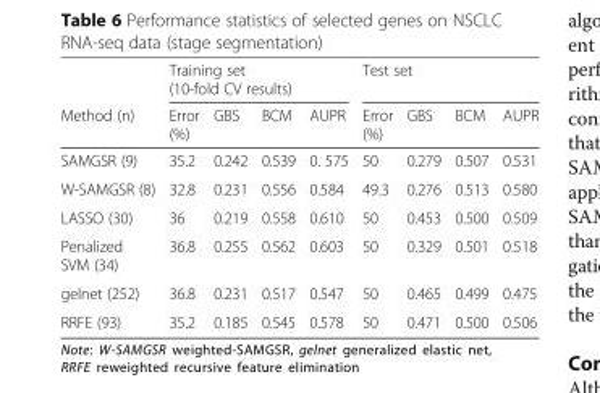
<table><thead><tr><td rowspan="2">Method (n)</td><td colspan="4">Training set (10-fold CV results)</td><td colspan="4">Test set</td></tr><tr><td>Error (%)</td><td>GBS</td><td>BCM</td><td>AUPR</td><td>Error (%)</td><td>GBS</td><td>BCM</td><td>AUPR</td></tr></thead><tbody><tr><td>SAMGSR (9)</td><td>35.2</td><td>0.242</td><td>0.539</td><td>0. 575</td><td>50</td><td>0.279</td><td>0.507</td><td>0.531</td></tr><tr><td>W-SAMGSR (8)</td><td>32.8</td><td>0.231</td><td>0.556</td><td>0.584</td><td>49.3</td><td>0.276</td><td>0.513</td><td>0.580</td></tr><tr><td>LASSO (30)</td><td>36</td><td>0.219</td><td>0.558</td><td>0.610</td><td>50</td><td>0.453</td><td>0.500</td><td>0.509</td></tr><tr><td>Penalized SVM (34)</td><td>36.8</td><td>0.255</td><td>0.562</td><td>0.603</td><td>50</td><td>0.329</td><td>0.501</td><td>0.518</td></tr><tr><td>gelnet (252)</td><td>36.8</td><td>0.231</td><td>0.517</td><td>0.547</td><td>50</td><td>0.465</td><td>0.499</td><td>0.475</td></tr><tr><td>RRFE (93)</td><td>35.2</td><td>0.185</td><td>0.545</td><td>0.578</td><td>50</td><td>0.471</td><td>0.500</td><td>0.506</td></tr></tbody></table>